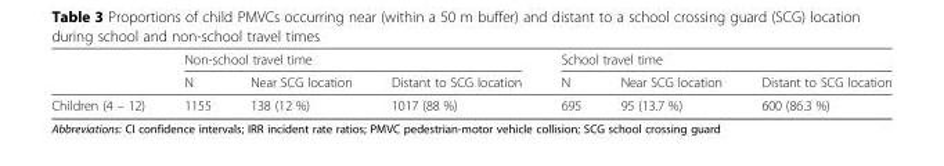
<table><thead><tr><td rowspan="2"></td><td colspan="3">Non-school travel time</td><td colspan="3">School travel time</td></tr><tr><td>N</td><td>Near SCG location</td><td>Distant to SCG location</td><td>N</td><td>Near SCG location</td><td>Distant to SCG location</td></tr></thead><tbody><tr><td>Children (4 – 12)</td><td>1155</td><td>138 (12 %)</td><td>1017 (88 %)</td><td>695</td><td>95 (13.7 %)</td><td>600 (86.3 %)</td></tr></tbody></table>